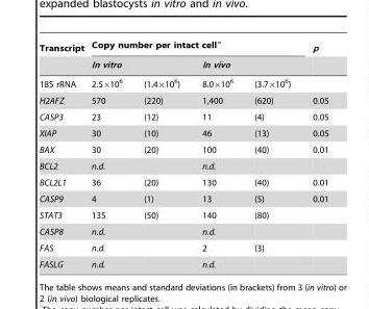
<table><thead><tr><td rowspan="3">Transcript 18S rRNA</td><td colspan="4">Copy number per intact cell°</td><td rowspan="3">p</td></tr><tr><td colspan="2">In vitro</td><td colspan="2">In vivo</td></tr><tr><td>2.5×10<sup>6</sup></td><td>(1.4×10<sup>6</sup>)</td><td>8.0×10<sup>6</sup></td><td>(3.7×10<sup>6</sup>)</td></tr></thead><tbody><tr><td>H2AFZ</td><td>570</td><td>(220)</td><td>1,400</td><td>(620)</td><td>0.05</td></tr><tr><td>CASP3</td><td>23</td><td>(12)</td><td>11</td><td>(4)</td><td>0.05</td></tr><tr><td>XIAP</td><td>30</td><td>(10)</td><td>46</td><td>(13)</td><td>0.05</td></tr><tr><td>BAX</td><td>30</td><td>(20)</td><td>100</td><td>(40)</td><td>0.01</td></tr><tr><td>BCL2</td><td>n.d.</td><td></td><td>n.d.</td><td></td><td></td></tr><tr><td>BCL2L1</td><td>36</td><td>(20)</td><td>130</td><td>(40)</td><td>0.01</td></tr><tr><td>CASP9</td><td>4</td><td>(1)</td><td>13</td><td>(5)</td><td>0.01</td></tr><tr><td>STAT3</td><td>135</td><td>(50)</td><td>140</td><td>(80)</td><td></td></tr><tr><td>CASP8</td><td>n.d.</td><td></td><td>n.d.</td><td></td><td></td></tr><tr><td>FAS</td><td>n.d.</td><td></td><td>2</td><td>(3)</td><td></td></tr><tr><td>FASLG</td><td>n.d.</td><td></td><td>n.d.</td><td></td><td></td></tr></tbody></table>